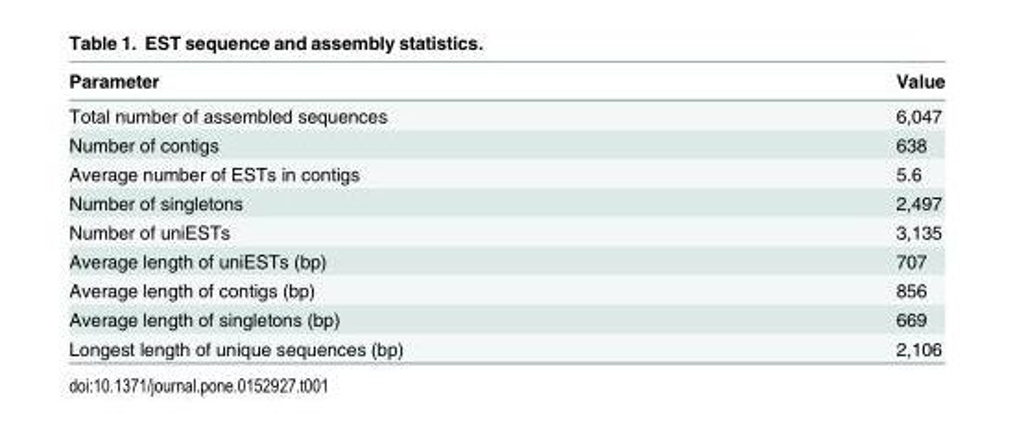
<table><thead><tr><td>Parameter</td><td>Value</td></tr></thead><tbody><tr><td>Total number of assembled sequences</td><td>6,047</td></tr><tr><td>Number of contigs</td><td>638</td></tr><tr><td>Average number of ESTs in contigs</td><td>5.6</td></tr><tr><td>Number of singletons</td><td>2,497</td></tr><tr><td>Number of uniESTs</td><td>3,135</td></tr><tr><td>Average length of uniESTs (bp)</td><td>707</td></tr><tr><td>Average length of contigs (bp)</td><td>856</td></tr><tr><td>Average length of singletons (bp)</td><td>669</td></tr><tr><td>Longest length of unique sequences (bp)</td><td>2,106</td></tr></tbody></table>